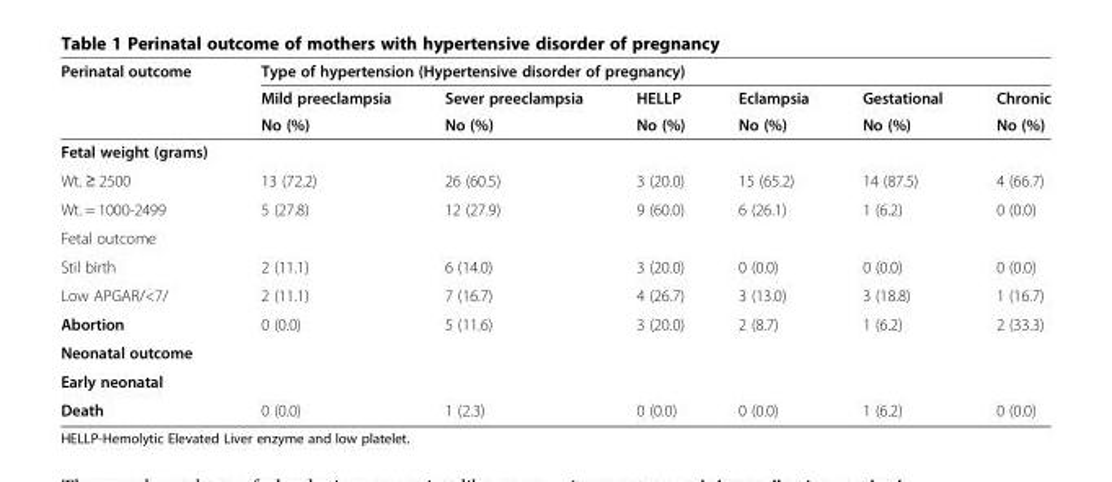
<table><thead><tr><td rowspan="3">Perinatal outcome</td><td colspan="6">Type of hypertension (Hypertensive disorder of pregnancy)</td></tr><tr><td rowspan="2">Mild preeclampsia No (%)</td><td rowspan="2">Sever preeclampsia No (%)</td><td rowspan="2">HELLP No (%)</td><td rowspan="2">Eclampsia No (%)</td><td rowspan="2">Gestational No (%)</td><td rowspan="2">Chronic No (%)</td></tr><tr></tr></thead><tbody><tr><td colspan="7">Fetal weight (grams)</td></tr><tr><td>Wt. ≥ 2500</td><td>13 (72.2)</td><td>26 (60.5)</td><td>3 (20.0)</td><td>15 (65.2)</td><td>14 (87.5)</td><td>4 (66.7)</td></tr><tr><td>Wt. = 1000-2499</td><td>5 (27.8)</td><td>12 (27.9)</td><td>9 (60.0)</td><td>6 (26.1)</td><td>1 (6.2)</td><td>0 (0.0)</td></tr><tr><td colspan="7">Fetal outcome</td></tr><tr><td>Stil birth</td><td>2 (11.1)</td><td>6 (14.0)</td><td>3 (20.0)</td><td>0 (0.0)</td><td>0 (0.0)</td><td>0 (0.0)</td></tr><tr><td>Low APGAR/&lt;7/</td><td>2 (11.1)</td><td>7 (16.7)</td><td>4 (26.7)</td><td>3 (13.0)</td><td>3 (18.8)</td><td>1 (16.7)</td></tr><tr><td>Abortion</td><td>0 (0.0)</td><td>5 (11.6)</td><td>3 (20.0)</td><td>2 (8.7)</td><td>1 (6.2)</td><td>2 (33.3)</td></tr><tr><td colspan="7">Neonatal outcome</td></tr><tr><td colspan="7">Early neonatal</td></tr><tr><td>Death</td><td>0 (0.0)</td><td>1 (2.3)</td><td>0 (0.0)</td><td>0 (0.0)</td><td>1 (6.2)</td><td>0 (0.0)</td></tr></tbody></table>